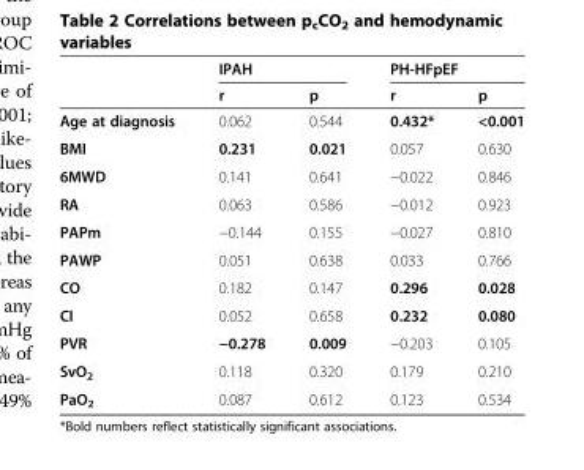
<table><thead><tr><td rowspan="2"></td><td colspan="2">IPAH</td><td colspan="2">PH-HFpEF</td></tr><tr><td>r</td><td>p</td><td>r</td><td>p</td></tr></thead><tbody><tr><td>Age at diagnosis</td><td>0.062</td><td>0.544</td><td>0.432*</td><td>&lt;0.001</td></tr><tr><td>BMI</td><td>0.231</td><td>0.021</td><td>0.057</td><td>0.630</td></tr><tr><td>6MWD</td><td>0.141</td><td>0.641</td><td>−0.022</td><td>0.846</td></tr><tr><td>RA</td><td>0.063</td><td>0.586</td><td>−0.012</td><td>0.923</td></tr><tr><td>PAPm</td><td>−0.144</td><td>0.155</td><td>−0.027</td><td>0.810</td></tr><tr><td>PAWP</td><td>0.051</td><td>0.638</td><td>0.033</td><td>0.766</td></tr><tr><td>CO</td><td>0.182</td><td>0.147</td><td>0.296</td><td>0.028</td></tr><tr><td>CI</td><td>0.052</td><td>0.658</td><td>0.232</td><td>0.080</td></tr><tr><td>PVR</td><td>−0.278</td><td>0.009</td><td>−0.203</td><td>0.105</td></tr><tr><td>SvO<sub>2</sub></td><td>0.118</td><td>0.320</td><td>0.179</td><td>0.210</td></tr><tr><td>PaO<sub>2</sub></td><td>0.087</td><td>0.612</td><td>0.123</td><td>0.534</td></tr></tbody></table>